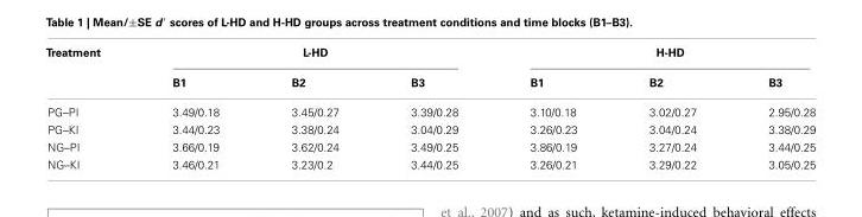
<table><thead><tr><td rowspan="2">Treatment</td><td colspan="3">L-HD</td><td colspan="3">H-HD</td></tr><tr><td>B1</td><td>B2</td><td>B3</td><td>B1</td><td>B2</td><td>B3</td></tr></thead><tbody><tr><td>PG–PI</td><td>3.49/0.18</td><td>3.45/0.27</td><td>3.39/0.28</td><td>3.10/0.18</td><td>3.02/0.27</td><td>2.95/0.28</td></tr><tr><td>PG–KI</td><td>3.44/0.23</td><td>3.38/0.24</td><td>3.04/0.29</td><td>3.26/0.23</td><td>3.04/0.24</td><td>3.38/0.29</td></tr><tr><td>NG–PI</td><td>3.66/0.19</td><td>3.62/0.24</td><td>3.49/0.25</td><td>3.86/0.19</td><td>3.27/0.24</td><td>3.44/0.25</td></tr><tr><td>NG–KI</td><td>3.46/0.21</td><td>3.23/0.2</td><td>3.44/0.25</td><td>3.26/0.21</td><td>3.29/0.22</td><td>3.05/0.25</td></tr></tbody></table>